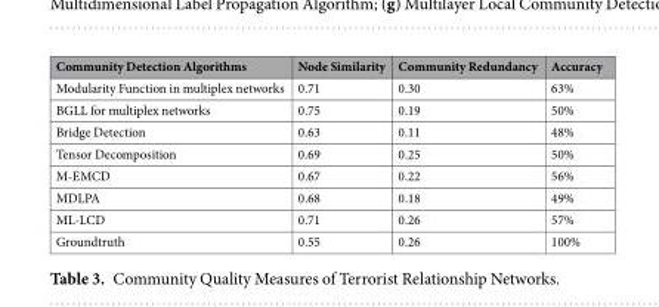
<table><thead><tr><td>Community Detection Algorithms</td><td>Node Similarity</td><td>Community Redundancy</td><td>Accuracy</td></tr></thead><tbody><tr><td>Modularity Function in multiplex networks</td><td>0.71</td><td>0.30</td><td>63%</td></tr><tr><td>BGLL for multiplex networks</td><td>0.75</td><td>0.19</td><td>50%</td></tr><tr><td>Bridge Detection</td><td>0.63</td><td>0.11</td><td>48%</td></tr><tr><td>Tensor Decomposition</td><td>0.69</td><td>0.25</td><td>50%</td></tr><tr><td>M-EMCD</td><td>0.67</td><td>0.22</td><td>56%</td></tr><tr><td>MDLPA</td><td>0.68</td><td>0.18</td><td>49%</td></tr><tr><td>ML-LCD</td><td>0.71</td><td>0.26</td><td>57%</td></tr><tr><td>Groundtruth</td><td>0.55</td><td>0.26</td><td>100%</td></tr></tbody></table>